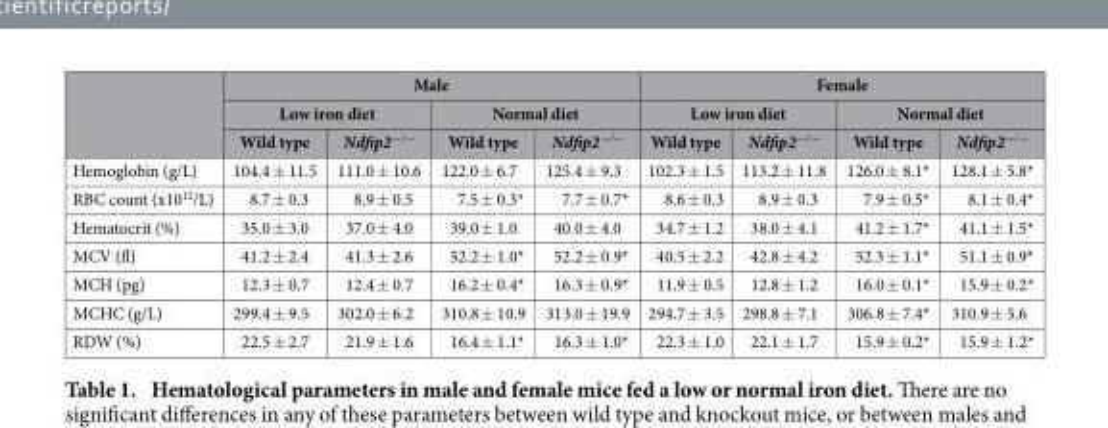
<table><thead><tr><td rowspan="3"></td><td colspan="4">Male</td><td colspan="4">Female</td></tr><tr><td colspan="2">Low iron diet</td><td colspan="2">Normal diet</td><td colspan="2">Low iron diet</td><td colspan="2">Normal diet</td></tr><tr><td>Wild type</td><td>Ndfip2<sup>−/−</sup></td><td>Wild type</td><td>Ndfip2<sup>−/−</sup></td><td>Wild type</td><td>Ndfip2<sup>−/−</sup></td><td>Wild type</td><td>Ndfip2<sup>−/−</sup></td></tr></thead><tbody><tr><td>Hemoglobin (g/L)</td><td>104.4 ± 11.5</td><td>111.0 ± 10.6</td><td>122.0 ± 6.7</td><td>125.4 ± 9.3</td><td>102.3 ± 1.5</td><td>113.2 ± 11.8</td><td>126.0 ± 8.1*</td><td>128.1 ± 5.8*</td></tr><tr><td>RBC count (x10<sup>12</sup>/L)</td><td>8.7 ± 0.3</td><td>8.9 ± 0.5</td><td>7.5 ± 0.3*</td><td>7.7 ± 0.7*</td><td>8.6 ± 0.3</td><td>8.9 ± 0.3</td><td>7.9 ± 0.5*</td><td>8.1 ± 0.4*</td></tr><tr><td>Hematocrit (%)</td><td>35.0 ± 3.0</td><td>37.0 ± 4.0</td><td>39.0 ± 1.0</td><td>40.0 ± 4.0</td><td>34.7 ± 1.2</td><td>38.0 ± 4.1</td><td>41.2 ± 1.7*</td><td>41.1 ± 1.5*</td></tr><tr><td>MCV (fl)</td><td>41.2 ± 2.4</td><td>41.3 ± 2.6</td><td>52.2 ± 1.0*</td><td>52.2 ± 0.9*</td><td>40.5 ± 2.2</td><td>42.8 ± 4.2</td><td>52.3 ± 1.1*</td><td>51.1 ± 0.9*</td></tr><tr><td>MCH (pg)</td><td>12.3 ± 0.7</td><td>12.4 ± 0.7</td><td>16.2 ± 0.4*</td><td>16.3 ± 0.9*</td><td>11.9 ± 0.5</td><td>12.8 ± 1.2</td><td>16.0 ± 0.1*</td><td>15.9 ± 0.2*</td></tr><tr><td>MCHC (g/L)</td><td>299.4 ± 9.5</td><td>302.0 ± 6.2</td><td>310.8 ± 10.9</td><td>313.0 ± 19.9</td><td>294.7 ± 3.5</td><td>298.8 ± 7.1</td><td>306.8 ± 7.4*</td><td>310.9 ± 5.6</td></tr><tr><td>RDW (%)</td><td>22.5 ± 2.7</td><td>21.9 ± 1.6</td><td>16.4 ± 1.1*</td><td>16.3 ± 1.0*</td><td>22.3 ± 1.0</td><td>22.1 ± 1.7</td><td>15.9 ± 0.2*</td><td>15.9 ± 1.2*</td></tr></tbody></table>